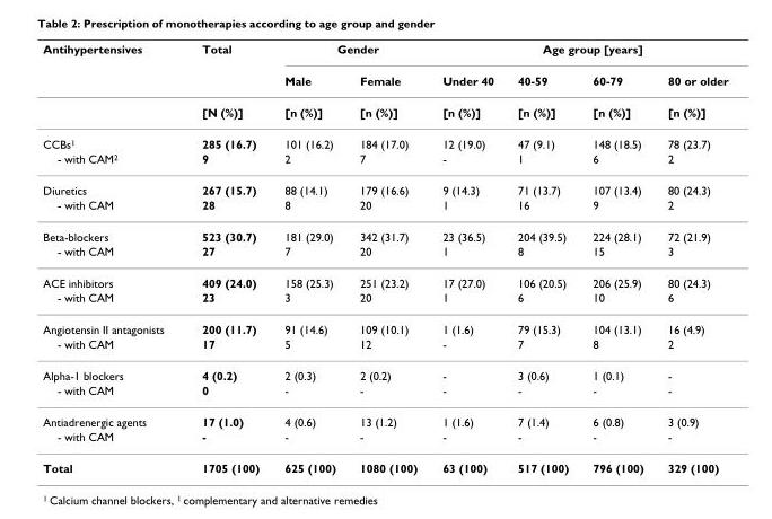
<table><thead><tr><td rowspan="2">Antihypertensives</td><td rowspan="2">Total</td><td colspan="2">Gender</td><td colspan="4">Age group [years]</td></tr><tr><td>Male</td><td>Female</td><td>Under 40</td><td>40-59</td><td>60-79</td><td>80 or older</td></tr></thead><tbody><tr><td></td><td>[N (%)]</td><td>[n (%)]</td><td>[n (%)]</td><td>[n (%)]</td><td>[n (%)]</td><td>[n (%)]</td><td>[n (%)]</td></tr><tr><td>CCBs<sup>1</sup></td><td>285 (16.7)</td><td>101 (16.2)</td><td>184 (17.0)</td><td>12 (19.0)</td><td>47 (9.1)</td><td>148 (18.5)</td><td>78 (23.7)</td></tr><tr><td>- with CAM<sup>2</sup></td><td>9</td><td>2</td><td>7</td><td>-</td><td>1</td><td>6</td><td>2</td></tr><tr><td>Diuretics</td><td>267 (15.7)</td><td>88 (14.1)</td><td>179 (16.6)</td><td>9 (14.3)</td><td>71 (13.7)</td><td>107 (13.4)</td><td>80 (24.3)</td></tr><tr><td>- with CAM</td><td>28</td><td>8</td><td>20</td><td>1</td><td>16</td><td>9</td><td>2</td></tr><tr><td>Beta-blockers</td><td>523 (30.7)</td><td>181 (29.0)</td><td>342 (31.7)</td><td>23 (36.5)</td><td>204 (39.5)</td><td>224 (28.1)</td><td>72 (21.9)</td></tr><tr><td>- with CAM</td><td>27</td><td>7</td><td>20</td><td>1</td><td>8</td><td>15</td><td>3</td></tr><tr><td>ACE inhibitors</td><td>409 (24.0)</td><td>158 (25.3)</td><td>251 (23.2)</td><td>17 (27.0)</td><td>106 (20.5)</td><td>206 (25.9)</td><td>80 (24.3)</td></tr><tr><td>- with CAM</td><td>23</td><td>3</td><td>20</td><td>1</td><td>6</td><td>10</td><td>6</td></tr><tr><td>Angiotensin II antagonists</td><td>200 (11.7)</td><td>91 (14.6)</td><td>109 (10.1)</td><td>1 (1.6)</td><td>79 (15.3)</td><td>104 (13.1)</td><td>16 (4.9)</td></tr><tr><td>- with CAM</td><td>17</td><td>5</td><td>12</td><td>-</td><td>7</td><td>8</td><td>2</td></tr><tr><td>Alpha-1 blockers</td><td>4 (0.2)</td><td>2 (0.3)</td><td>2 (0.2)</td><td>-</td><td>3 (0.6)</td><td>1 (0.1)</td><td>-</td></tr><tr><td>- with CAM</td><td>0</td><td>-</td><td>-</td><td>-</td><td>-</td><td>-</td><td>-</td></tr><tr><td>Antiadrenergic agents</td><td>17 (1.0)</td><td>4 (0.6)</td><td>13 (1.2)</td><td>1 (1.6)</td><td>7 (1.4)</td><td>6 (0.8)</td><td>3 (0.9)</td></tr><tr><td>- with CAM</td><td>-</td><td>-</td><td>-</td><td>-</td><td>-</td><td>-</td><td>-</td></tr><tr><td>Total</td><td>1705 (100)</td><td>625 (100)</td><td>1080 (100)</td><td>63 (100)</td><td>517 (100)</td><td>796 (100)</td><td>329 (100)</td></tr></tbody></table>